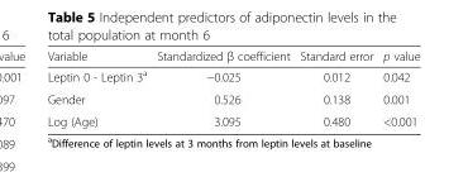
<table><thead><tr><td>Variable</td><td>Standardized β coefficient</td><td>Standard error</td><td>p value</td></tr></thead><tbody><tr><td>Leptin 0 - Leptin 3<sup>a</sup></td><td>−0.025</td><td>0.012</td><td>0.042</td></tr><tr><td>Gender</td><td>0.526</td><td>0.138</td><td>0.001</td></tr><tr><td>Log (Age)</td><td>3.095</td><td>0.480</td><td>&lt;0.001</td></tr></tbody></table>